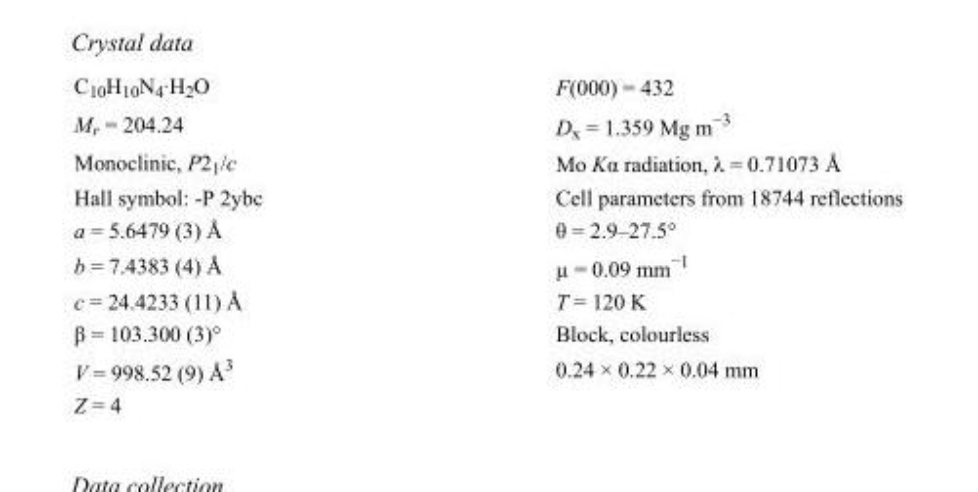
<table><tbody><tr><td>C<sub>10</sub>H<sub>10</sub>N<sub>4</sub>·H<sub>2</sub>O</td><td>F(000) = 432</td></tr><tr><td>M<sub>r</sub> = 204.24</td><td>D<sub>x</sub> = 1.359 Mg m<sup>−3</sup></td></tr><tr><td>Monoclinic, P2<sub>1</sub>/c</td><td>Mo Kα radiation, λ = 0.71073 Å</td></tr><tr><td>Hall symbol: -P 2ybc</td><td>Cell parameters from 18744 reflections</td></tr><tr><td>a = 5.6479 (3) Å</td><td>θ = 2.9–27.5°</td></tr><tr><td>b = 7.4383 (4) Å</td><td>µ = 0.09 mm<sup>−1</sup></td></tr><tr><td>c = 24.4233 (11) Å</td><td>T = 120 K</td></tr><tr><td>β = 103.300 (3)°</td><td>Block, colourless</td></tr><tr><td>V = 998.52 (9) Å<sup>3</sup></td><td>0.24 × 0.22 × 0.04 mm</td></tr><tr><td>Z = 4</td><td></td></tr></tbody></table>